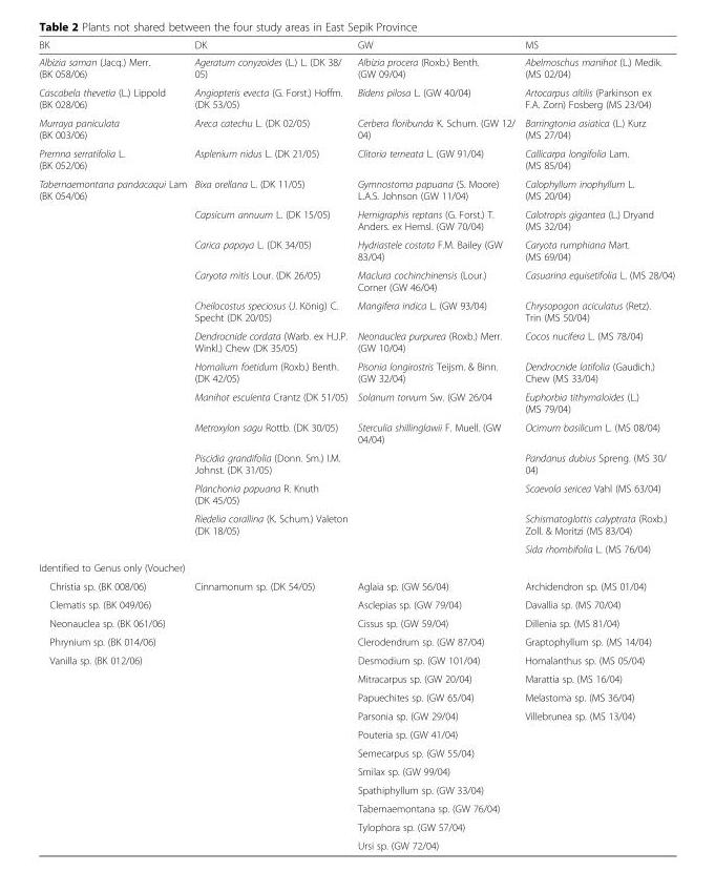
<table><thead><tr><td>BK</td><td>DK</td><td>GW</td><td>MS</td></tr></thead><tbody><tr><td>Albizia saman (Jacq.) Merr. (BK 058/06)</td><td>Ageratum conyzoides (L.) L. (DK 38/ 05)</td><td>Albizia procera (Roxb.) Benth. (GW 09/04)</td><td>Abelmoschus manihot (L.) Medik. (MS 02/04)</td></tr><tr><td>Cascabela thevetia (L.) Lippold (BK 028/06)</td><td>Angiopteris evecta (G. Forst.) Hoffm. (DK 53/05)</td><td>Bidens pilosa L. (GW 40/04)</td><td>Artocarpus altilis (Parkinson ex F.A. Zorn) Fosberg (MS 23/04)</td></tr><tr><td>Murraya paniculata (BK 003/06)</td><td>Areca catechu L. (DK 02/05)</td><td>Cerbera floribunda K. Schum. (GW 12/ 04)</td><td>Barringtonia asiatica (L.) Kurz (MS 27/04)</td></tr><tr><td>Premna serratifolia L. (BK 052/06)</td><td>Asplenium nidus L. (DK 21/05)</td><td>Clitoria terneata L. (GW 91/04)</td><td>Callicarpa longifolia Lam. (MS 85/04)</td></tr><tr><td rowspan="13">Tabernaemontana pandacaqui Lam (BK 054/06)</td><td>Bixa orellana L. (DK 11/05)</td><td>Gymnostoma papuana (S. Moore) L.A.S. Johnson (GW 11/04)</td><td>Calophyllum inophyllum L. (MS 20/04)</td></tr><tr><td>Capsicum annuum L. (DK 15/05)</td><td>Hemigraphis reptans (G. Forst.) T. Anders. ex Hemsl. (GW 70/04)</td><td>Calotropis gigantea (L.) Dryand (MS 32/04)</td></tr><tr><td>Carica papaya L. (DK 34/05)</td><td>Hydriastele costata F.M. Bailey (GW 83/04)</td><td>Caryota rumphiana Mart. (MS 69/04)</td></tr><tr><td>Caryota mitis Lour. (DK 26/05)</td><td>Maclura cochinchinensis (Lour.) Corner (GW 46/04)</td><td>Casuarina equisetifolia L. (MS 28/04)</td></tr><tr><td>Cheilocostus speciosus (J. König) C. Specht (DK 20/05)</td><td>Mangifera indica L. (GW 93/04)</td><td>Chrysopogon aciculatus (Retz). Trin (MS 50/04)</td></tr><tr><td>Dendrocnide cordata (Warb. ex H.J.P. Winkl.) Chew (DK 35/05)</td><td>Neonauclea purpurea (Roxb.) Merr. (GW 10/04)</td><td>Cocos nucifera L. (MS 78/04)</td></tr><tr><td>Homalium foetidum (Roxb.) Benth. (DK 42/05)</td><td>Pisonia longirostris Teijsm. &amp; Binn. (GW 32/04)</td><td>Dendrocnide latifolia (Gaudich.) Chew (MS 33/04)</td></tr><tr><td>Manihot esculenta Crantz (DK 51/05)</td><td>Solanum torvum Sw. (GW 26/04</td><td>Euphorbia tithymaloides (L.) (MS 79/04)</td></tr><tr><td>Metroxylon sagu Rottb. (DK 30/05)</td><td>Sterculia shillinglawii F. Muell. (GW 04/04)</td><td>Ocimum basilicum L. (MS 08/04)</td></tr><tr><td>Piscidia grandifolia (Donn. Sm.) I.M. Johnst. (DK 31/05)</td><td></td><td>Pandanus dubius Spreng. (MS 30/ 04)</td></tr><tr><td>Planchonia papuana R. Knuth (DK 45/05)</td><td></td><td>Scaevola sericea Vahl (MS 63/04)</td></tr><tr><td>Riedelia corallina (K. Schum.) Valeton (DK 18/05)</td><td></td><td>Schismatoglottis calyptrata (Roxb.) Zoll. &amp; Moritzi (MS 83/04)</td></tr><tr><td></td><td></td><td>Sida rhombifolia L. (MS 76/04)</td></tr><tr><td colspan="4">Identified to Genus only (Voucher)</td></tr><tr><td>Christia sp. (BK 008/06)</td><td>Cinnamonum sp. (DK 54/05)</td><td>Aglaia sp. (GW 56/04)</td><td>Archidendron sp. (MS 01/04)</td></tr><tr><td>Clematis sp. (BK 049/06)</td><td></td><td>Asclepias sp. (GW 79/04)</td><td>Davallia sp. (MS 70/04)</td></tr><tr><td>Neonauclea sp. (BK 061/06)</td><td></td><td>Cissus sp. (GW 59/04)</td><td>Dillenia sp. (MS 81/04)</td></tr><tr><td>Phrynium sp. (BK 014/06)</td><td></td><td>Clerodendrum sp. (GW 87/04)</td><td>Graptophyllum sp. (MS 14/04)</td></tr><tr><td rowspan="11">Vanilla sp. (BK 012/06)</td><td></td><td>Desmodium sp. (GW 101/04)</td><td>Homalanthus sp. (MS 05/04)</td></tr><tr><td></td><td>Mitracarpus sp. (GW 20/04)</td><td>Marattia sp. (MS 16/04)</td></tr><tr><td></td><td>Papuechites sp. (GW 65/04)</td><td>Melastoma sp. (MS 36/04)</td></tr><tr><td></td><td>Parsonia sp. (GW 29/04)</td><td>Villebrunea sp. (MS 13/04)</td></tr><tr><td></td><td>Pouteria sp. (GW 41/04)</td><td></td></tr><tr><td></td><td>Semecarpus sp. (GW 55/04)</td><td></td></tr><tr><td></td><td>Smilax sp. (GW 99/04)</td><td></td></tr><tr><td></td><td>Spathiphyllum sp. (GW 33/04)</td><td></td></tr><tr><td></td><td>Tabernaemontana sp. (GW 76/04)</td><td></td></tr><tr><td></td><td>Tylophora sp. (GW 57/04)</td><td></td></tr><tr><td></td><td>Ursi sp. (GW 72/04)</td><td></td></tr></tbody></table>